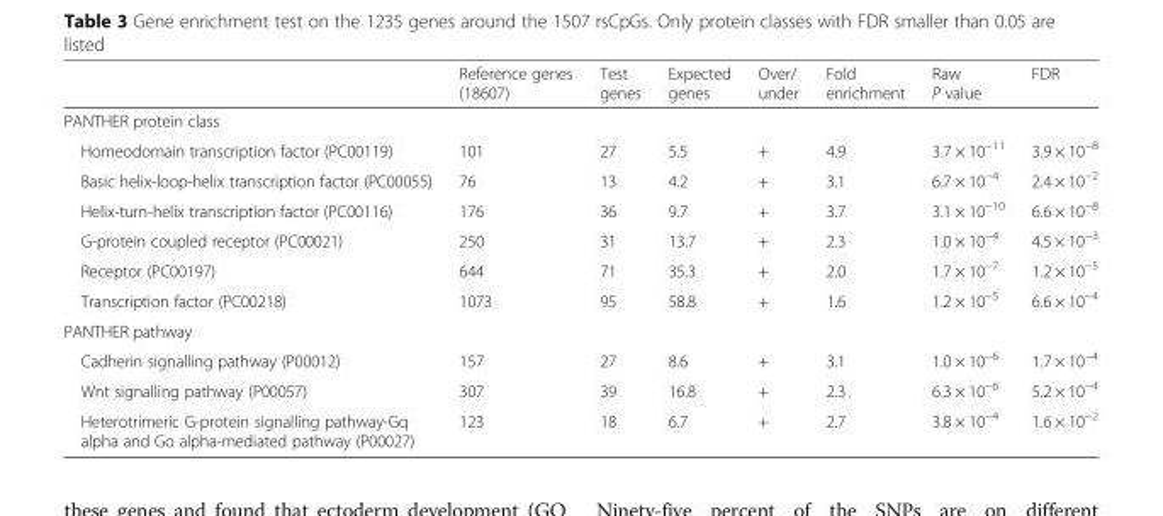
<table><thead><tr><td></td><td>Reference genes (18607)</td><td>Test genes</td><td>Expected genes</td><td>Over/ under</td><td>Fold enrichment</td><td>Raw P value</td><td>FDR</td></tr></thead><tbody><tr><td colspan="8">PANTHER protein class</td></tr><tr><td>Homeodomain transcription factor (PC00119)</td><td>101</td><td>27</td><td>5.5</td><td>+</td><td>4.9</td><td>3.7 × 10<sup>−11</sup></td><td>3.9 × 10<sup>−8</sup></td></tr><tr><td>Basic helix-loop-helix transcription factor (PC00055)</td><td>76</td><td>13</td><td>4.2</td><td>+</td><td>3.1</td><td>6.7 × 10<sup>−4</sup></td><td>2.4 × 10<sup>−2</sup></td></tr><tr><td>Helix-turn-helix transcription factor (PC00116)</td><td>176</td><td>36</td><td>9.7</td><td>+</td><td>3.7</td><td>3.1 × 10<sup>−10</sup></td><td>6.6 × 10<sup>−8</sup></td></tr><tr><td>G-protein coupled receptor (PC00021)</td><td>250</td><td>31</td><td>13.7</td><td>+</td><td>2.3</td><td>1.0 × 10<sup>−4</sup></td><td>4.5 × 10<sup>−3</sup></td></tr><tr><td>Receptor (PC00197)</td><td>644</td><td>71</td><td>35.3</td><td>+</td><td>2.0</td><td>1.7 × 10<sup>−7</sup></td><td>1.2 × 10<sup>−5</sup></td></tr><tr><td>Transcription factor (PC00218)</td><td>1073</td><td>95</td><td>58.8</td><td>+</td><td>1.6</td><td>1.2 × 10<sup>−5</sup></td><td>6.6 × 10<sup>−4</sup></td></tr><tr><td colspan="8">PANTHER pathway</td></tr><tr><td>Cadherin signalling pathway (P00012)</td><td>157</td><td>27</td><td>8.6</td><td>+</td><td>3.1</td><td>1.0 × 10<sup>−6</sup></td><td>1.7 × 10<sup>−4</sup></td></tr><tr><td>Wnt signalling pathway (P00057)</td><td>307</td><td>39</td><td>16.8</td><td>+</td><td>2.3</td><td>6.3 × 10<sup>−6</sup></td><td>5.2 × 10<sup>−4</sup></td></tr><tr><td>Heterotrimeric G-protein signalling pathway-Gq alpha and Go alpha-mediated pathway (P00027)</td><td>123</td><td>18</td><td>6.7</td><td>+</td><td>2.7</td><td>3.8 × 10<sup>−4</sup></td><td>1.6 × 10<sup>−2</sup></td></tr></tbody></table>